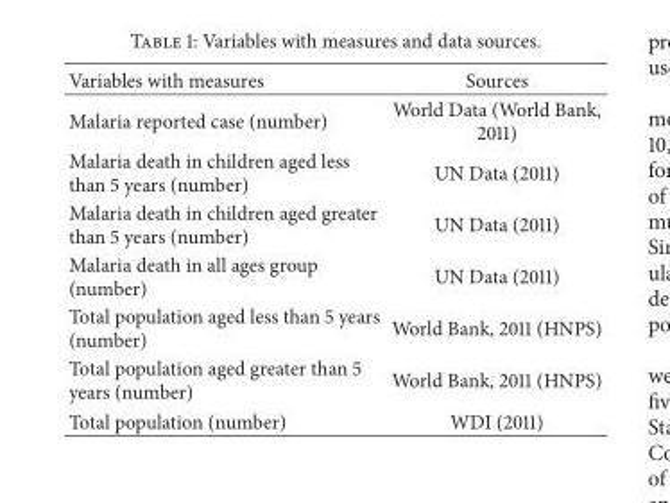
<table><thead><tr><td>Variables with measures</td><td>Sources</td></tr></thead><tbody><tr><td>Malaria reported case (number)</td><td>World Data (World Bank, 2011)</td></tr><tr><td>Malaria death in children aged less than 5 years (number)</td><td>UN Data (2011)</td></tr><tr><td>Malaria death in children aged greater than 5 years (number)</td><td>UN Data (2011)</td></tr><tr><td>Malaria death in all ages group (number)</td><td>UN Data (2011)</td></tr><tr><td>Total population aged less than 5 years (number)</td><td>World Bank, 2011 (HNPS)</td></tr><tr><td>Total population aged greater than 5 years (number)</td><td>World Bank, 2011 (HNPS)</td></tr><tr><td>Total population (number)</td><td>WDI (2011)</td></tr></tbody></table>